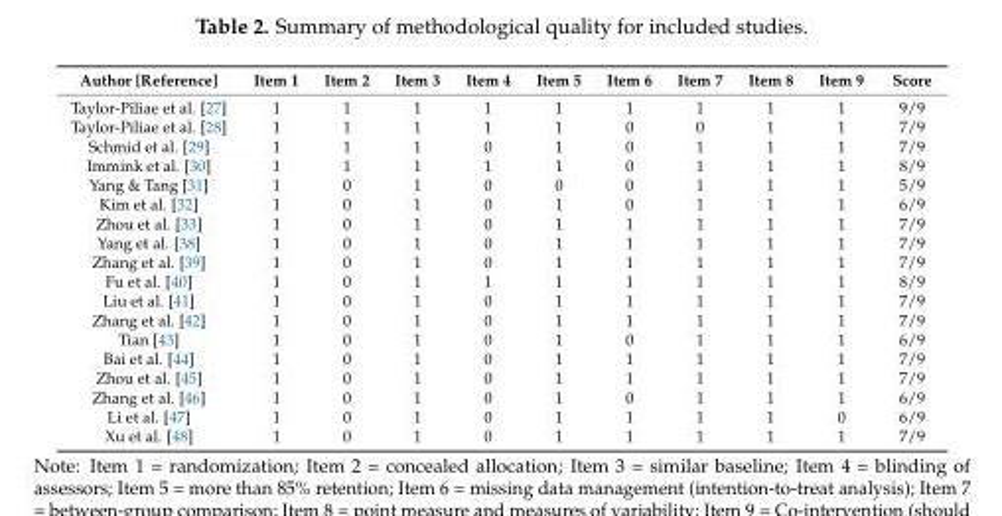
<table><thead><tr><td>Author [Reference]</td><td>Item 1</td><td>Item 2</td><td>Item 3</td><td>Item 4</td><td>Item 5</td><td>Item 6</td><td>Item 7</td><td>Item 8</td><td>Item 9</td><td>Score</td></tr></thead><tbody><tr><td>Taylor-Piliae et al. [27]</td><td>1</td><td>1</td><td>1</td><td>1</td><td>1</td><td>1</td><td>1</td><td>1</td><td>1</td><td>9/9</td></tr><tr><td>Taylor-Piliae et al. [28]</td><td>1</td><td>1</td><td>1</td><td>1</td><td>1</td><td>0</td><td>0</td><td>1</td><td>1</td><td>7/9</td></tr><tr><td>Schmid et al. [29]</td><td>1</td><td>1</td><td>1</td><td>0</td><td>1</td><td>0</td><td>1</td><td>1</td><td>1</td><td>7/9</td></tr><tr><td>Immink et al. [30]</td><td>1</td><td>1</td><td>1</td><td>1</td><td>1</td><td>0</td><td>1</td><td>1</td><td>1</td><td>8/9</td></tr><tr><td>Yang &amp; Tang [31]</td><td>1</td><td>0</td><td>1</td><td>0</td><td>0</td><td>0</td><td>1</td><td>1</td><td>1</td><td>5/9</td></tr><tr><td>Kim et al. [32]</td><td>1</td><td>0</td><td>1</td><td>0</td><td>1</td><td>0</td><td>1</td><td>1</td><td>1</td><td>6/9</td></tr><tr><td>Zhou et al. [33]</td><td>1</td><td>0</td><td>1</td><td>0</td><td>1</td><td>1</td><td>1</td><td>1</td><td>1</td><td>7/9</td></tr><tr><td>Yang et al. [38]</td><td>1</td><td>0</td><td>1</td><td>0</td><td>1</td><td>1</td><td>1</td><td>1</td><td>1</td><td>7/9</td></tr><tr><td>Zhang et al. [39]</td><td>1</td><td>0</td><td>1</td><td>0</td><td>1</td><td>1</td><td>1</td><td>1</td><td>1</td><td>7/9</td></tr><tr><td>Fu et al. [40]</td><td>1</td><td>0</td><td>1</td><td>1</td><td>1</td><td>1</td><td>1</td><td>1</td><td>1</td><td>8/9</td></tr><tr><td>Liu et al. [41]</td><td>1</td><td>0</td><td>1</td><td>0</td><td>1</td><td>1</td><td>1</td><td>1</td><td>1</td><td>7/9</td></tr><tr><td>Zhang et al. [42]</td><td>1</td><td>0</td><td>1</td><td>0</td><td>1</td><td>1</td><td>1</td><td>1</td><td>1</td><td>7/9</td></tr><tr><td>Tian [43]</td><td>1</td><td>0</td><td>1</td><td>0</td><td>1</td><td>0</td><td>1</td><td>1</td><td>1</td><td>6/9</td></tr><tr><td>Bai et al. [44]</td><td>1</td><td>0</td><td>1</td><td>0</td><td>1</td><td>1</td><td>1</td><td>1</td><td>1</td><td>7/9</td></tr><tr><td>Zhou et al. [45]</td><td>1</td><td>0</td><td>1</td><td>0</td><td>1</td><td>1</td><td>1</td><td>1</td><td>1</td><td>7/9</td></tr><tr><td>Zhang et al. [46]</td><td>1</td><td>0</td><td>1</td><td>0</td><td>1</td><td>0</td><td>1</td><td>1</td><td>1</td><td>6/9</td></tr><tr><td>Li et al. [47]</td><td>1</td><td>0</td><td>1</td><td>0</td><td>1</td><td>1</td><td>1</td><td>1</td><td>0</td><td>6/9</td></tr><tr><td>Xu et al. [48]</td><td>1</td><td>0</td><td>1</td><td>0</td><td>1</td><td>1</td><td>1</td><td>1</td><td>1</td><td>7/9</td></tr></tbody></table>